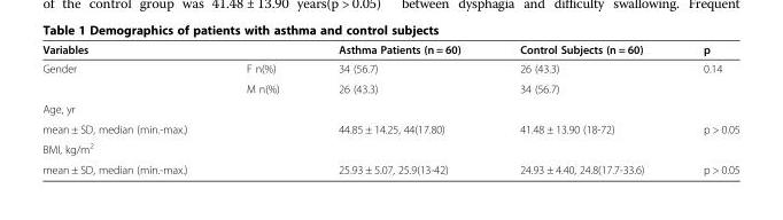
<table><thead><tr><td>Variables</td><td></td><td>Asthma Patients (n = 60)</td><td>Control Subjects (n = 60)</td><td>p</td></tr></thead><tbody><tr><td rowspan="2">Gender</td><td>F n(%)</td><td>34 (56.7)</td><td>26 (43.3)</td><td>0.14</td></tr><tr><td>M n(%)</td><td>26 (43.3)</td><td>34 (56.7)</td><td></td></tr><tr><td colspan="5">Age, yr</td></tr><tr><td>mean ± SD, median (min.-max.)</td><td></td><td>44.85 ± 14.25, 44(17.80)</td><td>41.48 ± 13.90 (18-72)</td><td>p &gt; 0.05</td></tr><tr><td colspan="5">BMI, kg/m<sup>2</sup></td></tr><tr><td>mean ± SD, median (min.-max.)</td><td></td><td>25.93 ± 5.07, 25.9(13-42)</td><td>24.93 ± 4.40, 24.8(17.7-33.6)</td><td>p &gt; 0.05</td></tr></tbody></table>